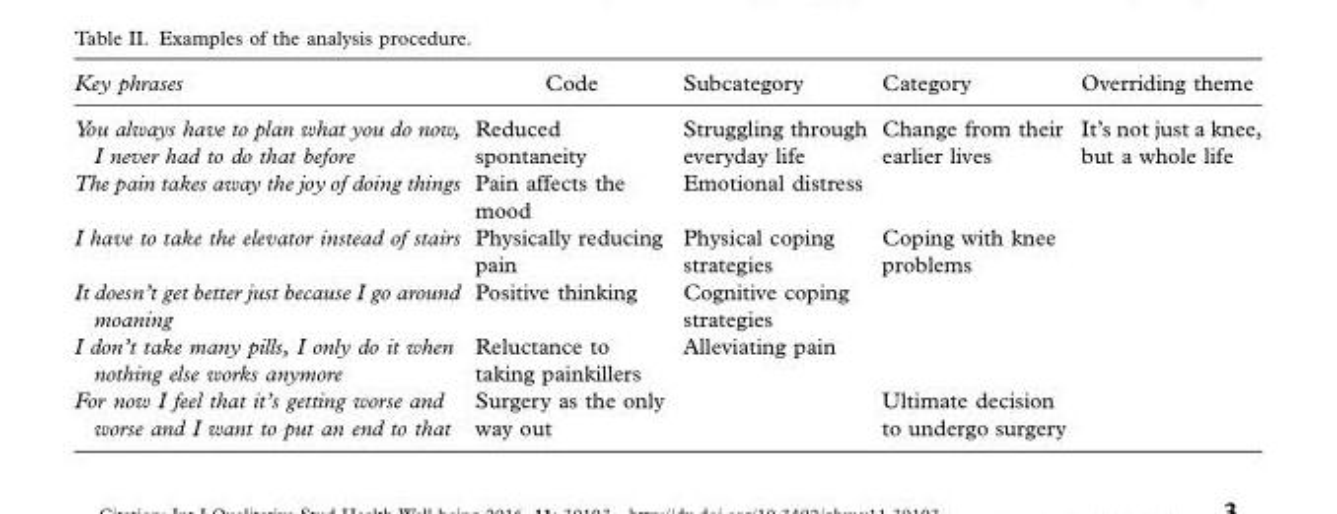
<table><tbody><tr><td>Key phrases</td><td>Code</td><td>Subcategory</td><td>Category</td><td>Overriding theme</td></tr><tr><td>You always have to plan what you do now, I never had to do that before</td><td>Reduced spontaneity</td><td>Struggling through everyday life</td><td>Change from their earlier lives</td><td>It’s not just a knee, but a whole life</td></tr><tr><td>The pain takes away the joy of doing things</td><td>Pain affects the mood</td><td>Emotional distress</td><td></td><td></td></tr><tr><td>I have to take the elevator instead of stairs</td><td>Physically reducing pain</td><td>Physical coping strategies</td><td>Coping with knee problems</td><td></td></tr><tr><td>It doesn’t get better just because I go around moaning</td><td>Positive thinking</td><td>Cognitive coping strategies</td><td></td><td></td></tr><tr><td>I don’t take many pills, I only do it when nothing else works anymore</td><td>Reluctance to taking painkillers</td><td>Alleviating pain</td><td></td><td></td></tr><tr><td>For now I feel that it’s getting worse and worse and I want to put an end to that</td><td>Surgery as the only way out</td><td></td><td>Ultimate decision to undergo surgery</td><td></td></tr></tbody></table>